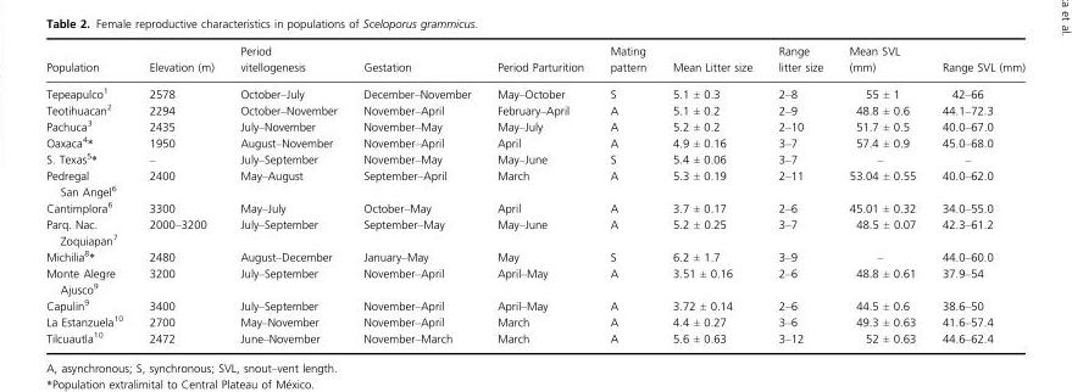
<table><thead><tr><td>Population</td><td>Elevation (m)</td><td>Period vitellogenesis</td><td>Gestation</td><td>Period Parturition</td><td>Mating pattern</td><td>Mean Litter size</td><td>Range litter size</td><td>Mean SVL (mm)</td><td>Range SVL (mm)</td></tr></thead><tbody><tr><td>Tepeapulco<sup>1</sup></td><td>2578</td><td>October–July</td><td>December–November</td><td>May–October</td><td>S</td><td>5.1 ± 0.3</td><td>2–8</td><td>55 ± 1</td><td>42–66</td></tr><tr><td>Teotihuacan<sup>2</sup></td><td>2294</td><td>October–November</td><td>November–April</td><td>February–April</td><td>A</td><td>5.1 ± 0.2</td><td>2–9</td><td>48.8 ± 0.6</td><td>44.1–72.3</td></tr><tr><td>Pachuca<sup>3</sup></td><td>2435</td><td>July–November</td><td>November–May</td><td>May–July</td><td>A</td><td>5.2 ± 0.2</td><td>2–10</td><td>51.7 ± 0.5</td><td>40.0–67.0</td></tr><tr><td>Oaxaca<sup>4</sup>*</td><td>1950</td><td>August–November</td><td>November–April</td><td>April</td><td>A</td><td>4.9 ± 0.16</td><td>3–7</td><td>57.4 ± 0.9</td><td>45.0–68.0</td></tr><tr><td>S. Texas<sup>5</sup>*</td><td>–</td><td>July–September</td><td>November–May</td><td>May–June</td><td>S</td><td>5.4 ± 0.06</td><td>3–7</td><td>–</td><td>–</td></tr><tr><td>Pedregal San Angel<sup>6</sup></td><td>2400</td><td>May–August</td><td>September–April</td><td>March</td><td>A</td><td>5.3 ± 0.19</td><td>2–11</td><td>53.04 ± 0.55</td><td>40.0–62.0</td></tr><tr><td>Cantimplora<sup>6</sup></td><td>3300</td><td>May–July</td><td>October–May</td><td>April</td><td>A</td><td>3.7 ± 0.17</td><td>2–6</td><td>45.01 ± 0.32</td><td>34.0–55.0</td></tr><tr><td>Parq. Nac. Zoquiapan<sup>7</sup></td><td>2000–3200</td><td>July–September</td><td>September–May</td><td>May–June</td><td>A</td><td>5.2 ± 0.25</td><td>3–7</td><td>48.5 ± 0.07</td><td>42.3–61.2</td></tr><tr><td>Michilia<sup>8</sup>*</td><td>2480</td><td>August–December</td><td>January–May</td><td>May</td><td>S</td><td>6.2 ± 1.7</td><td>3–9</td><td>–</td><td>44.0–60.0</td></tr><tr><td>Monte Alegre Ajusco<sup>9</sup></td><td>3200</td><td>July–September</td><td>November–April</td><td>April–May</td><td>A</td><td>3.51 ± 0.16</td><td>2–6</td><td>48.8 ± 0.61</td><td>37.9–54</td></tr><tr><td>Capulin<sup>9</sup></td><td>3400</td><td>July–September</td><td>November–April</td><td>April–May</td><td>A</td><td>3.72 ± 0.14</td><td>2–6</td><td>44.5 ± 0.6</td><td>38.6–50</td></tr><tr><td>La Estanzuela<sup>10</sup></td><td>2700</td><td>May–November</td><td>November–April</td><td>March</td><td>A</td><td>4.4 ± 0.27</td><td>3–6</td><td>49.3 ± 0.63</td><td>41.6–57.4</td></tr><tr><td>Tilcuautla<sup>10</sup></td><td>2472</td><td>June–November</td><td>November–March</td><td>March</td><td>A</td><td>5.6 ± 0.63</td><td>3–12</td><td>52 ± 0.63</td><td>44.6–62.4</td></tr></tbody></table>